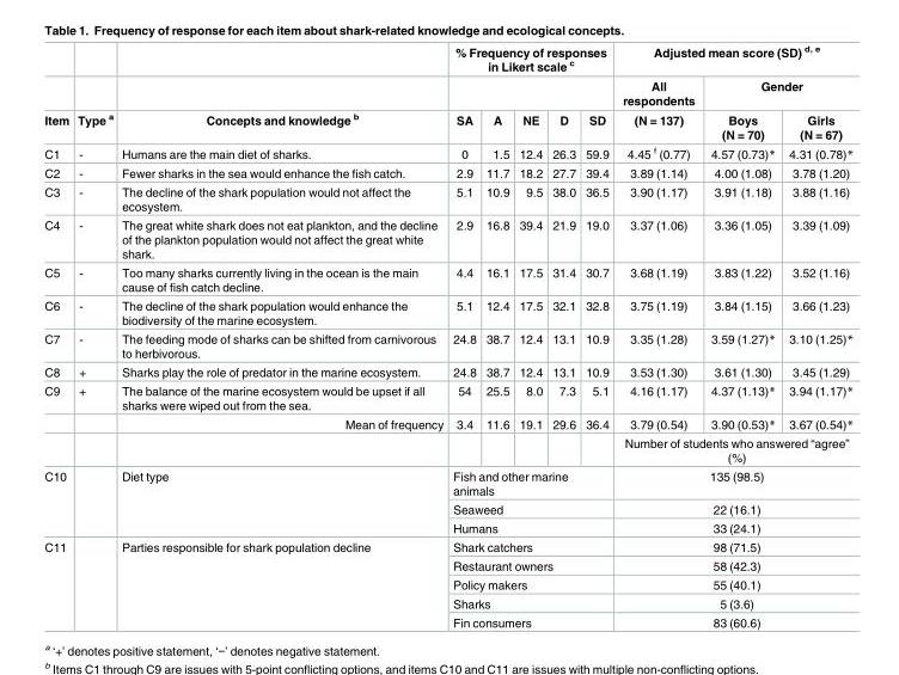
<table><thead><tr><td rowspan="3">Item</td><td rowspan="3">Type <sup>a</sup></td><td rowspan="3">Concepts and knowledge <sup>b</sup></td><td colspan="5">% Frequency of responses in Likert scale <sup>c</sup></td><td colspan="3">Adjusted mean score (SD) <sup>d, e</sup></td></tr><tr><td rowspan="2">SA</td><td rowspan="2">A</td><td rowspan="2">NE</td><td rowspan="2">D</td><td rowspan="2">SD</td><td rowspan="2">All respondents (N = 137)</td><td colspan="2">Gender</td></tr><tr><td>Boys (N = 70)</td><td>Girls (N = 67)</td></tr></thead><tbody><tr><td>C1</td><td>-</td><td>Humans are the main diet of sharks.</td><td>0</td><td>1.5</td><td>12.4</td><td>26.3</td><td>59.9</td><td>4.45 <sup>f</sup> (0.77)</td><td>4.57 (0.73)*</td><td>4.31 (0.78)*</td></tr><tr><td>C2</td><td>-</td><td>Fewer sharks in the sea would enhance the fish catch.</td><td>2.9</td><td>11.7</td><td>18.2</td><td>27.7</td><td>39.4</td><td>3.89 (1.14)</td><td>4.00 (1.08)</td><td>3.78 (1.20)</td></tr><tr><td>C3</td><td>-</td><td>The decline of the shark population would not affect the ecosystem.</td><td>5.1</td><td>10.9</td><td>9.5</td><td>38.0</td><td>36.5</td><td>3.90 (1.17)</td><td>3.91 (1.18)</td><td>3.88 (1.16)</td></tr><tr><td>C4</td><td>-</td><td>The great white shark does not eat plankton, and the decline of the plankton population would not affect the great white shark.</td><td>2.9</td><td>16.8</td><td>39.4</td><td>21.9</td><td>19.0</td><td>3.37 (1.06)</td><td>3.36 (1.05)</td><td>3.39 (1.09)</td></tr><tr><td>C5</td><td>-</td><td>Too many sharks currently living in the ocean is the main cause of fish catch decline.</td><td>4.4</td><td>16.1</td><td>17.5</td><td>31.4</td><td>30.7</td><td>3.68 (1.19)</td><td>3.83 (1.22)</td><td>3.52 (1.16)</td></tr><tr><td>C6</td><td>-</td><td>The decline of the shark population would enhance the biodiversity of the marine ecosystem.</td><td>5.1</td><td>12.4</td><td>17.5</td><td>32.1</td><td>32.8</td><td>3.75 (1.19)</td><td>3.84 (1.15)</td><td>3.66 (1.23)</td></tr><tr><td>C7</td><td>-</td><td>The feeding mode of sharks can be shifted from carnivorous to herbivorous.</td><td>24.8</td><td>38.7</td><td>12.4</td><td>13.1</td><td>10.9</td><td>3.35 (1.28)</td><td>3.59 (1.27)*</td><td>3.10 (1.25)*</td></tr><tr><td>C8</td><td>+</td><td>Sharks play the role of predator in the marine ecosystem.</td><td>24.8</td><td>38.7</td><td>12.4</td><td>13.1</td><td>10.9</td><td>3.53 (1.30)</td><td>3.61 (1.30)</td><td>3.45 (1.29)</td></tr><tr><td rowspan="3">C9</td><td>+</td><td>The balance of the marine ecosystem would be upset if all sharks were wiped out from the sea.</td><td>54</td><td>25.5</td><td>8.0</td><td>7.3</td><td>5.1</td><td>4.16 (1.17)</td><td>4.37 (1.13)*</td><td>3.94 (1.17)*</td></tr><tr><td></td><td>Mean of frequency</td><td>3.4</td><td>11.6</td><td>19.1</td><td>29.6</td><td>36.4</td><td>3.79 (0.54)</td><td>3.90 (0.53)*</td><td>3.67 (0.54)*</td></tr><tr><td></td><td></td><td></td><td></td><td></td><td></td><td></td><td colspan="3">Number of students who answered “agree” (%)</td></tr><tr><td rowspan="3">C10</td><td rowspan="3"></td><td rowspan="3">Diet type</td><td colspan="5">Fish and other marine animals</td><td colspan="3">135 (98.5)</td></tr><tr><td colspan="5">Seaweed</td><td colspan="3">22 (16.1)</td></tr><tr><td colspan="5">Humans</td><td colspan="3">33 (24.1)</td></tr><tr><td rowspan="5">C11</td><td rowspan="5"></td><td rowspan="5">Parties responsible for shark population decline</td><td colspan="5">Shark catchers</td><td colspan="3">98 (71.5)</td></tr><tr><td colspan="5">Restaurant owners</td><td colspan="3">58 (42.3)</td></tr><tr><td colspan="5">Policy makers</td><td colspan="3">55 (40.1)</td></tr><tr><td colspan="5">Sharks</td><td colspan="3">5 (3.6)</td></tr><tr><td colspan="5">Fin consumers</td><td colspan="3">83 (60.6)</td></tr></tbody></table>